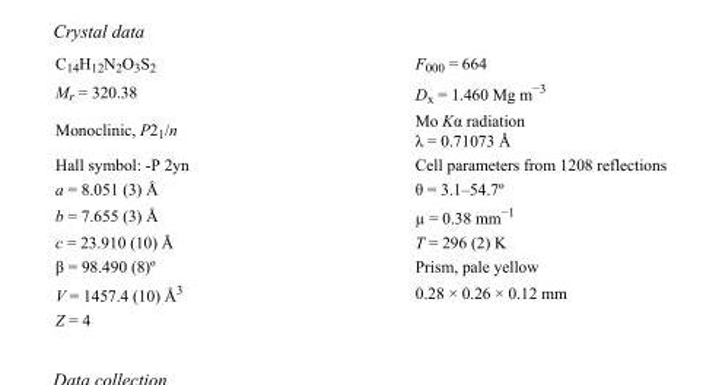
<table><tbody><tr><td>C<sub>14</sub>H<sub>12</sub>N<sub>2</sub>O<sub>3</sub>S<sub>2</sub></td><td>F000 = 664</td></tr><tr><td>M<sub>r</sub> = 320.38</td><td>D<sub>x</sub> = 1.460 Mg m<sup>−3</sup></td></tr><tr><td>Monoclinic, P2<sub>1</sub>/n</td><td>Mo Kα radiation λ = 0.71073 Å</td></tr><tr><td>Hall symbol: -P 2yn</td><td>Cell parameters from 1208 reflections</td></tr><tr><td>a = 8.051 (3) Å</td><td>θ = 3.1–54.7º</td></tr><tr><td>b = 7.655 (3) Å</td><td>µ = 0.38 mm<sup>−1</sup></td></tr><tr><td>c = 23.910 (10) Å</td><td>T = 296 (2) K</td></tr><tr><td>β = 98.490 (8)º</td><td>Prism, pale yellow</td></tr><tr><td>V = 1457.4 (10) Å<sup>3</sup></td><td>0.28 × 0.26 × 0.12 mm</td></tr><tr><td>Z = 4</td><td></td></tr></tbody></table>